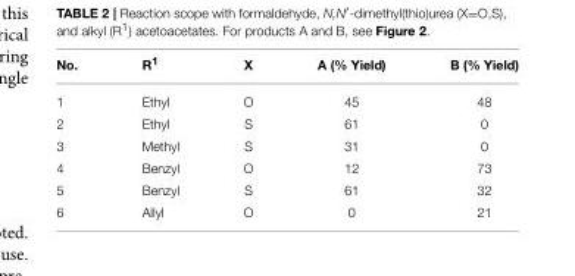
<table><thead><tr><td>No.</td><td>R<sup>1</sup></td><td>X</td><td>A (% Yield)</td><td>B (% Yield)</td></tr></thead><tbody><tr><td>1</td><td>Ethyl</td><td>O</td><td>45</td><td>48</td></tr><tr><td>2</td><td>Ethyl</td><td>S</td><td>61</td><td>0</td></tr><tr><td>3</td><td>Methyl</td><td>S</td><td>31</td><td>0</td></tr><tr><td>4</td><td>Benzyl</td><td>O</td><td>12</td><td>73</td></tr><tr><td>5</td><td>Benzyl</td><td>S</td><td>61</td><td>32</td></tr><tr><td>6</td><td>Allyl</td><td>O</td><td>0</td><td>21</td></tr></tbody></table>